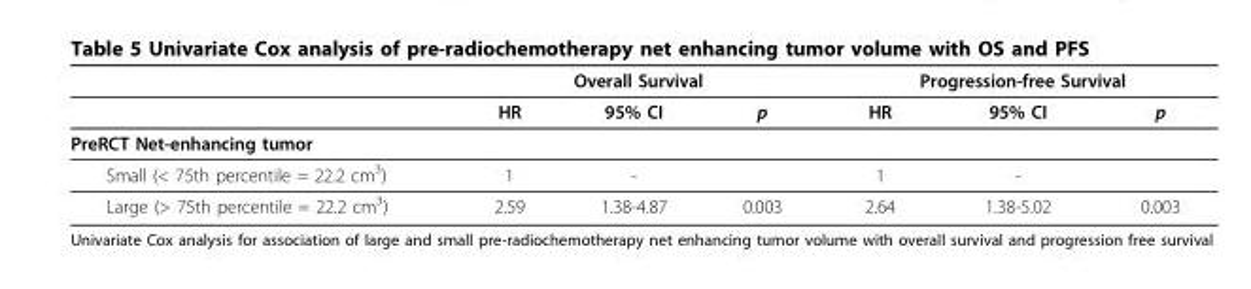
<table><thead><tr><td rowspan="2"></td><td colspan="3">Overall Survival</td><td colspan="3">Progression-free Survival</td></tr><tr><td>HR</td><td>95% CI</td><td>p</td><td>HR</td><td>95% CI</td><td>p</td></tr></thead><tbody><tr><td colspan="7">PreRCT Net-enhancing tumor</td></tr><tr><td>Small (&lt; 75th percentile = 22.2 cm3)</td><td>1</td><td>-</td><td></td><td>1</td><td>-</td><td></td></tr><tr><td>Large (&gt; 75th percentile = 22.2 cm3)</td><td>2.59</td><td>1.38-4.87</td><td>0.003</td><td>2.64</td><td>1.38-5.02</td><td>0.003</td></tr></tbody></table>